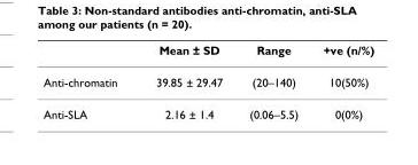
<table><thead><tr><td></td><td>Mean ± SD</td><td>Range</td><td>+ve (n/%)</td></tr></thead><tbody><tr><td>Anti-chromatin</td><td>39.85 ± 29.47</td><td>(20–140)</td><td>10(50%)</td></tr><tr><td>Anti-SLA</td><td>2.16 ± 1.4</td><td>(0.06–5.5)</td><td>0(0%)</td></tr></tbody></table>